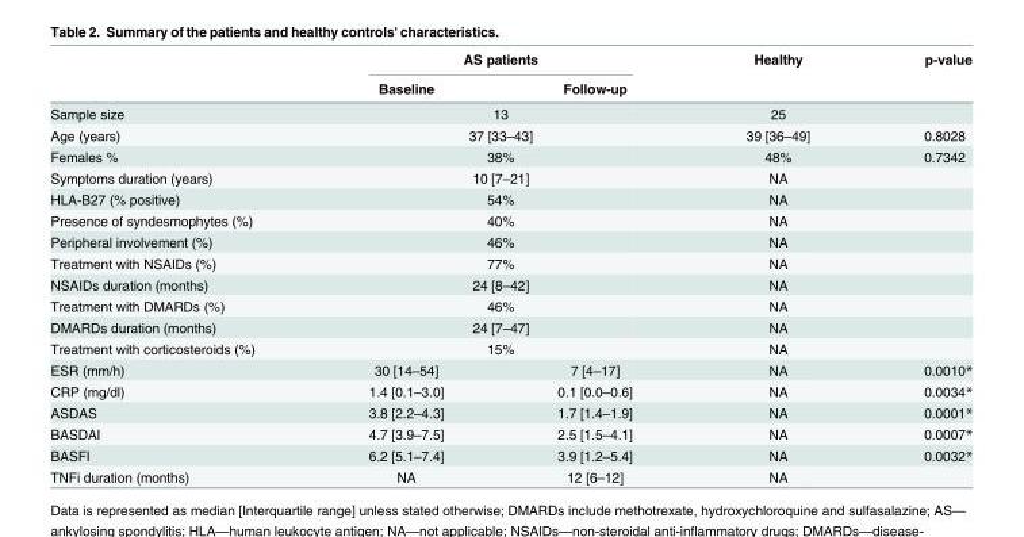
<table><thead><tr><td rowspan="2"></td><td colspan="2">AS patients</td><td rowspan="2">Healthy</td><td rowspan="2">p-value</td></tr><tr><td>Baseline</td><td>Follow-up</td></tr></thead><tbody><tr><td>Sample size</td><td colspan="2">13</td><td>25</td><td></td></tr><tr><td>Age (years)</td><td colspan="2">37 [33–43]</td><td>39 [36–49]</td><td>0.8028</td></tr><tr><td>Females %</td><td colspan="2">38%</td><td>48%</td><td>0.7342</td></tr><tr><td>Symptoms duration (years)</td><td colspan="2">10 [7–21]</td><td>NA</td><td></td></tr><tr><td>HLA-B27 (% positive)</td><td colspan="2">54%</td><td>NA</td><td></td></tr><tr><td>Presence of syndesmophytes (%)</td><td colspan="2">40%</td><td>NA</td><td></td></tr><tr><td>Peripheral involvement (%)</td><td colspan="2">46%</td><td>NA</td><td></td></tr><tr><td>Treatment with NSAIDs (%)</td><td colspan="2">77%</td><td>NA</td><td></td></tr><tr><td>NSAIDs duration (months)</td><td colspan="2">24 [8–42]</td><td>NA</td><td></td></tr><tr><td>Treatment with DMARDs (%)</td><td colspan="2">46%</td><td>NA</td><td></td></tr><tr><td>DMARDs duration (months)</td><td colspan="2">24 [7–47]</td><td>NA</td><td></td></tr><tr><td>Treatment with corticosteroids (%)</td><td colspan="2">15%</td><td>NA</td><td></td></tr><tr><td>ESR (mm/h)</td><td>30 [14–54]</td><td>7 [4–17]</td><td>NA</td><td>0.0010*</td></tr><tr><td>CRP (mg/dl)</td><td>1.4 [0.1–3.0]</td><td>0.1 [0.0–0.6]</td><td>NA</td><td>0.0034*</td></tr><tr><td>ASDAS</td><td>3.8 [2.2–4.3]</td><td>1.7 [1.4–1.9]</td><td>NA</td><td>0.0001*</td></tr><tr><td>BASDAI</td><td>4.7 [3.9–7.5]</td><td>2.5 [1.5–4.1]</td><td>NA</td><td>0.0007*</td></tr><tr><td>BASFI</td><td>6.2 [5.1–7.4]</td><td>3.9 [1.2–5.4]</td><td>NA</td><td>0.0032*</td></tr><tr><td>TNFi duration (months)</td><td>NA</td><td>12 [6–12]</td><td>NA</td><td></td></tr></tbody></table>